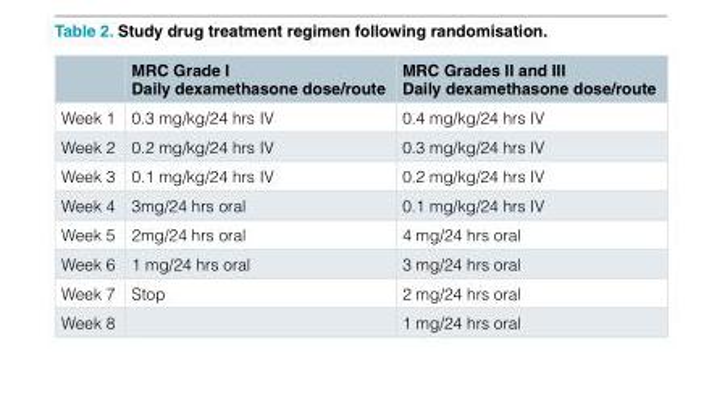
<table><thead><tr><td></td><td>MRC Grade I Daily dexamethasone dose/route</td><td>MRC Grades II and III Daily dexamethasone dose/route</td></tr></thead><tbody><tr><td>Week 1</td><td>0.3 mg/kg/24 hrs IV</td><td>0.4 mg/kg/24 hrs IV</td></tr><tr><td>Week 2</td><td>0.2 mg/kg/24 hrs IV</td><td>0.3 mg/kg/24 hrs IV</td></tr><tr><td>Week 3</td><td>0.1 mg/kg/24 hrs IV</td><td>0.2 mg/kg/24 hrs IV</td></tr><tr><td>Week 4</td><td>3mg/24 hrs oral</td><td>0.1 mg/kg/24 hrs IV</td></tr><tr><td>Week 5</td><td>2mg/24 hrs oral</td><td>4 mg/24 hrs oral</td></tr><tr><td>Week 6</td><td>1 mg/24 hrs oral</td><td>3 mg/24 hrs oral</td></tr><tr><td>Week 7</td><td>Stop</td><td>2 mg/24 hrs oral</td></tr><tr><td>Week 8</td><td></td><td>1 mg/24 hrs oral</td></tr></tbody></table>